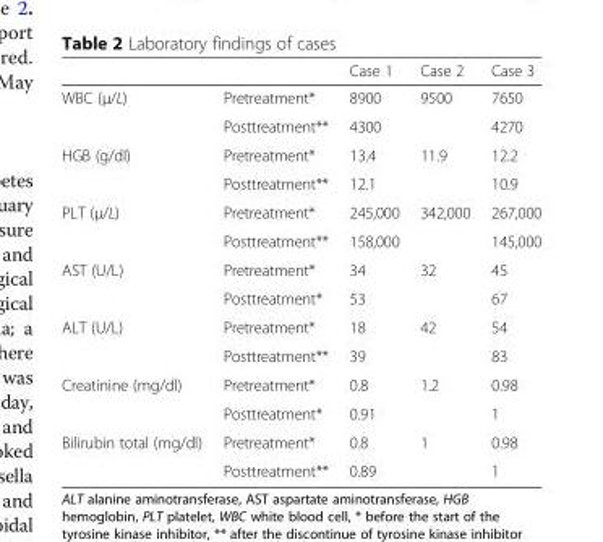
<table><thead><tr><td></td><td></td><td>Case 1</td><td>Case 2</td><td>Case 3</td></tr></thead><tbody><tr><td rowspan="2">WBC (μ/L)</td><td>Pretreatment*</td><td>8900</td><td>9500</td><td>7650</td></tr><tr><td>Posttreatment**</td><td>4300</td><td></td><td>4270</td></tr><tr><td rowspan="2">HGB (g/dl)</td><td>Pretreatment*</td><td>13.4</td><td>11.9</td><td>12.2</td></tr><tr><td>Posttreatment**</td><td>12.1</td><td></td><td>10.9</td></tr><tr><td rowspan="2">PLT (μ/L)</td><td>Pretreatment*</td><td>245,000</td><td>342,000</td><td>267,000</td></tr><tr><td>Posttreatment**</td><td>158,000</td><td></td><td>145,000</td></tr><tr><td rowspan="2">AST (U/L)</td><td>Pretreatment*</td><td>34</td><td>32</td><td>45</td></tr><tr><td>Posttreatment*</td><td>53</td><td></td><td>67</td></tr><tr><td rowspan="2">ALT (U/L)</td><td>Pretreatment*</td><td>18</td><td>42</td><td>54</td></tr><tr><td>Posttreatment**</td><td>39</td><td></td><td>83</td></tr><tr><td rowspan="2">Creatinine (mg/dl)</td><td>Pretreatment*</td><td>0.8</td><td>1.2</td><td>0.98</td></tr><tr><td>Posttreatment*</td><td>0.91</td><td></td><td>1</td></tr><tr><td rowspan="2">Bilirubin total (mg/dl)</td><td>Pretreatment*</td><td>0.8</td><td>1</td><td>0.98</td></tr><tr><td>Posttreatment**</td><td>0.89</td><td></td><td>1</td></tr></tbody></table>